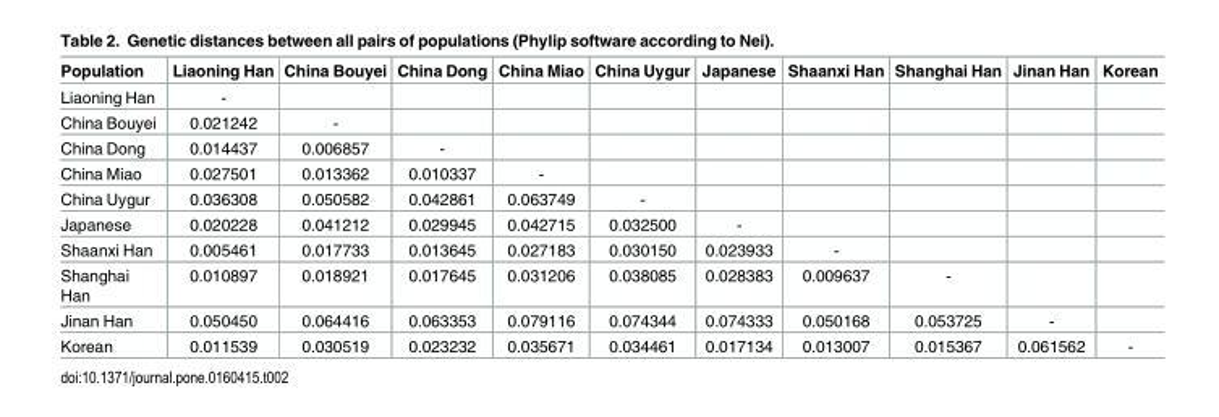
<table><thead><tr><td>Population</td><td>Liaoning Han</td><td>China Bouyei</td><td>China Dong</td><td>China Miao</td><td>China Uygur</td><td>Japanese</td><td>Shaanxi Han</td><td>Shanghai Han</td><td>Jinan Han</td><td>Korean</td></tr></thead><tbody><tr><td>Liaoning Han</td><td>-</td><td></td><td></td><td></td><td></td><td></td><td></td><td></td><td></td><td></td></tr><tr><td>China Bouyei</td><td>0.021242</td><td>-</td><td></td><td></td><td></td><td></td><td></td><td></td><td></td><td></td></tr><tr><td>China Dong</td><td>0.014437</td><td>0.006857</td><td>-</td><td></td><td></td><td></td><td></td><td></td><td></td><td></td></tr><tr><td>China Miao</td><td>0.027501</td><td>0.013362</td><td>0.010337</td><td>-</td><td></td><td></td><td></td><td></td><td></td><td></td></tr><tr><td>China Uygur</td><td>0.036308</td><td>0.050582</td><td>0.042861</td><td>0.063749</td><td>-</td><td></td><td></td><td></td><td></td><td></td></tr><tr><td>Japanese</td><td>0.020228</td><td>0.041212</td><td>0.029945</td><td>0.042715</td><td>0.032500</td><td>-</td><td></td><td></td><td></td><td></td></tr><tr><td>Shaanxi Han</td><td>0.005461</td><td>0.017733</td><td>0.013645</td><td>0.027183</td><td>0.030150</td><td>0.023933</td><td>-</td><td></td><td></td><td></td></tr><tr><td>Shanghai Han</td><td>0.010897</td><td>0.018921</td><td>0.017645</td><td>0.031206</td><td>0.038085</td><td>0.028383</td><td>0.009637</td><td>-</td><td></td><td></td></tr><tr><td>Jinan Han</td><td>0.050450</td><td>0.064416</td><td>0.063353</td><td>0.079116</td><td>0.074344</td><td>0.074333</td><td>0.050168</td><td>0.053725</td><td>-</td><td></td></tr><tr><td>Korean</td><td>0.011539</td><td>0.030519</td><td>0.023232</td><td>0.035671</td><td>0.034461</td><td>0.017134</td><td>0.013007</td><td>0.015367</td><td>0.061562</td><td>-</td></tr></tbody></table>